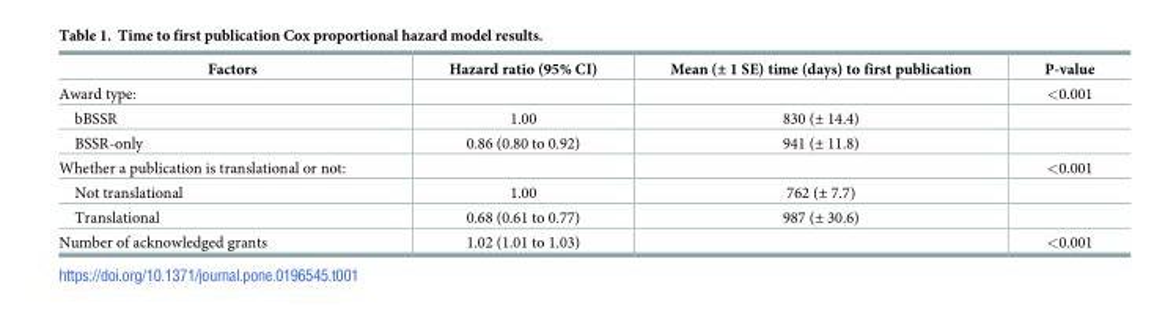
<table><thead><tr><td>Factors</td><td>Hazard ratio (95% CI)</td><td>Mean (± 1 SE) time (days) to first publication</td><td>P-value</td></tr></thead><tbody><tr><td>Award type:</td><td></td><td></td><td>&lt;0.001</td></tr><tr><td>bBSSR</td><td>1.00</td><td>830 (± 14.4)</td><td></td></tr><tr><td>BSSR-only</td><td>0.86 (0.80 to 0.92)</td><td>941 (± 11.8)</td><td></td></tr><tr><td>Whether a publication is translational or not:</td><td></td><td></td><td>&lt;0.001</td></tr><tr><td>Not translational</td><td>1.00</td><td>762 (± 7.7)</td><td></td></tr><tr><td>Translational</td><td>0.68 (0.61 to 0.77)</td><td>987 (± 30.6)</td><td></td></tr><tr><td>Number of acknowledged grants</td><td>1.02 (1.01 to 1.03)</td><td></td><td>&lt;0.001</td></tr></tbody></table>